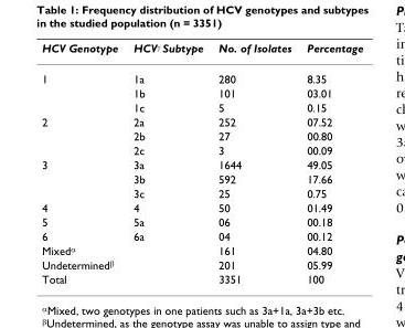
<table><thead><tr><td>HCV Genotype</td><td>HCV<sup>γ</sup> Subtype</td><td>No. of Isolates</td><td>Percentage</td></tr></thead><tbody><tr><td rowspan="3">1</td><td>1a</td><td>280</td><td>8.35</td></tr><tr><td>1b</td><td>101</td><td>03.01</td></tr><tr><td>1c</td><td>5</td><td>0.15</td></tr><tr><td rowspan="3">2</td><td>2a</td><td>252</td><td>07.52</td></tr><tr><td>2b</td><td>27</td><td>00.80</td></tr><tr><td>2c</td><td>3</td><td>00.09</td></tr><tr><td rowspan="3">3</td><td>3a</td><td>1644</td><td>49.05</td></tr><tr><td>3b</td><td>592</td><td>17.66</td></tr><tr><td>3c</td><td>25</td><td>0.75</td></tr><tr><td>4</td><td>4</td><td>50</td><td>01.49</td></tr><tr><td>5</td><td>5a</td><td>06</td><td>00.18</td></tr><tr><td>6</td><td>6a</td><td>04</td><td>00.12</td></tr><tr><td>Mixed<sup>α</sup></td><td></td><td>161</td><td>04.80</td></tr><tr><td>Undetermined<sup>β</sup></td><td></td><td>201</td><td>05.99</td></tr><tr><td>Total</td><td></td><td>3351</td><td>100</td></tr></tbody></table>